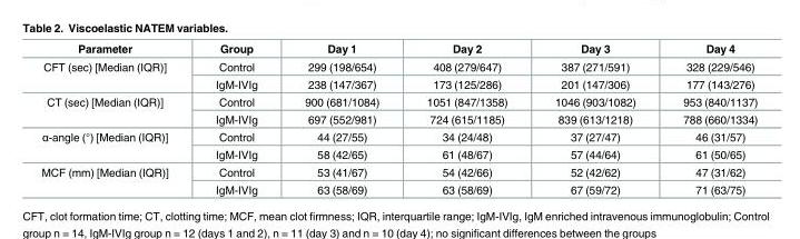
<table><thead><tr><td>Parameter</td><td>Group</td><td>Day 1</td><td>Day 2</td><td>Day 3</td><td>Day 4</td></tr></thead><tbody><tr><td rowspan="2">CFT (sec) [Median (IQR)]</td><td>Control</td><td>299 (198/654)</td><td>408 (279/647)</td><td>387 (271/591)</td><td>328 (229/546)</td></tr><tr><td>IgM-IVIg</td><td>238 (147/367)</td><td>173 (125/286)</td><td>201 (147/306)</td><td>177 (143/276)</td></tr><tr><td rowspan="2">CT (sec) [Median (IQR)]</td><td>Control</td><td>900 (681/1084)</td><td>1051 (847/1358)</td><td>1046 (903/1082)</td><td>953 (840/1137)</td></tr><tr><td>IgM-IVIg</td><td>697 (552/981)</td><td>724 (615/1185)</td><td>839 (613/1218)</td><td>788 (660/1334)</td></tr><tr><td rowspan="2">α-angle (°) [Median (IQR)]</td><td>Control</td><td>44 (27/55)</td><td>34 (24/48)</td><td>37 (27/47)</td><td>46 (31/57)</td></tr><tr><td>IgM-IVIg</td><td>58 (42/65)</td><td>61 (48/67)</td><td>57 (44/64)</td><td>61 (50/65)</td></tr><tr><td rowspan="2">MCF (mm) [Median (IQR)]</td><td>Control</td><td>53 (41/67)</td><td>54 (42/66)</td><td>52 (42/62)</td><td>47 (31/62)</td></tr><tr><td>IgM-IVIg</td><td>63 (58/69)</td><td>63 (58/69)</td><td>67 (59/72)</td><td>71 (63/75)</td></tr></tbody></table>